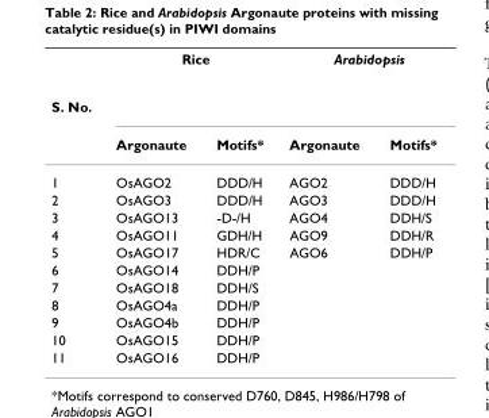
<table><thead><tr><td rowspan="2">S. No.</td><td colspan="2">Rice</td><td colspan="2">Arabidopsis</td></tr><tr><td>Argonaute</td><td>Motifs*</td><td>Argonaute</td><td>Motifs*</td></tr></thead><tbody><tr><td>1</td><td>OsAGO2</td><td>DDD/H</td><td>AGO2</td><td>DDD/H</td></tr><tr><td>2</td><td>OsAGO3</td><td>DDD/H</td><td>AGO3</td><td>DDD/H</td></tr><tr><td>3</td><td>OsAGO13</td><td>-D-/H</td><td>AGO4</td><td>DDH/S</td></tr><tr><td>4</td><td>OsAGO11</td><td>GDH/H</td><td>AGO9</td><td>DDH/R</td></tr><tr><td>5</td><td>OsAGO17</td><td>HDR/C</td><td>AGO6</td><td>DDH/P</td></tr><tr><td>6</td><td>OsAGO14</td><td>DDH/P</td><td></td><td></td></tr><tr><td>7</td><td>OsAGO18</td><td>DDH/S</td><td></td><td></td></tr><tr><td>8</td><td>OsAGO4a</td><td>DDH/P</td><td></td><td></td></tr><tr><td>9</td><td>OsAGO4b</td><td>DDH/P</td><td></td><td></td></tr><tr><td>10</td><td>OsAGO15</td><td>DDH/P</td><td></td><td></td></tr><tr><td>11</td><td>OsAGO16</td><td>DDH/P</td><td></td><td></td></tr></tbody></table>